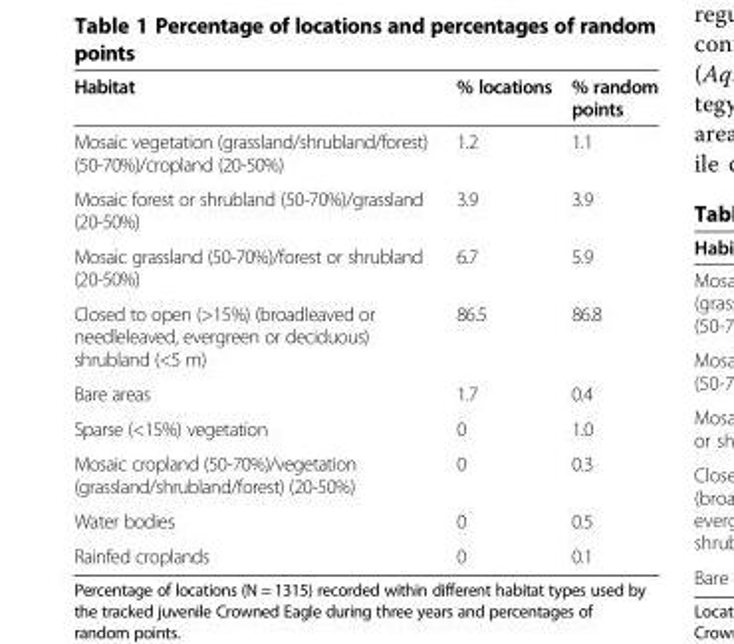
<table><thead><tr><td>Habitat</td><td>% locations</td><td>% random points</td></tr></thead><tbody><tr><td>Mosaic vegetation (grassland/shrubland/forest) (50-70%)/cropland (20-50%)</td><td>1.2</td><td>1.1</td></tr><tr><td>Mosaic forest or shrubland (50-70%)/grassland (20-50%)</td><td>3.9</td><td>3.9</td></tr><tr><td>Mosaic grassland (50-70%)/forest or shrubland (20-50%)</td><td>6.7</td><td>5.9</td></tr><tr><td>Closed to open (&gt;15%) (broadleaved or needleleaved, evergreen or deciduous) shrubland (&lt;5 m)</td><td>86.5</td><td>86.8</td></tr><tr><td>Bare areas</td><td>1.7</td><td>0.4</td></tr><tr><td>Sparse (&lt;15%) vegetation</td><td>0</td><td>1.0</td></tr><tr><td>Mosaic cropland (50-70%)/vegetation (grassland/shrubland/forest) (20-50%)</td><td>0</td><td>0.3</td></tr><tr><td>Water bodies</td><td>0</td><td>0.5</td></tr><tr><td>Rainfed croplands</td><td>0</td><td>0.1</td></tr></tbody></table>